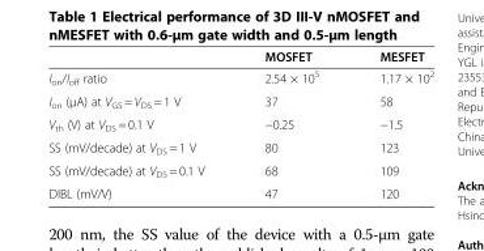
<table><thead><tr><td></td><td>MOSFET</td><td>MESFET</td></tr></thead><tbody><tr><td>I<sub>on</sub>/I<sub>off</sub> ratio</td><td>2.54 × 10<sup>5</sup></td><td>1.17 × 10<sup>2</sup></td></tr><tr><td>I<sub>on</sub> (μA) at V<sub>GS</sub> = V<sub>DS</sub> = 1 V</td><td>37</td><td>58</td></tr><tr><td>V<sub>th</sub> (V) at V<sub>DS</sub> = 0.1 V</td><td>−0.25</td><td>−1.5</td></tr><tr><td>SS (mV/decade) at V<sub>DS</sub> = 1 V</td><td>80</td><td>123</td></tr><tr><td>SS (mV/decade) at V<sub>DS</sub> = 0.1 V</td><td>68</td><td>109</td></tr><tr><td>DIBL (mV/V)</td><td>47</td><td>120</td></tr></tbody></table>